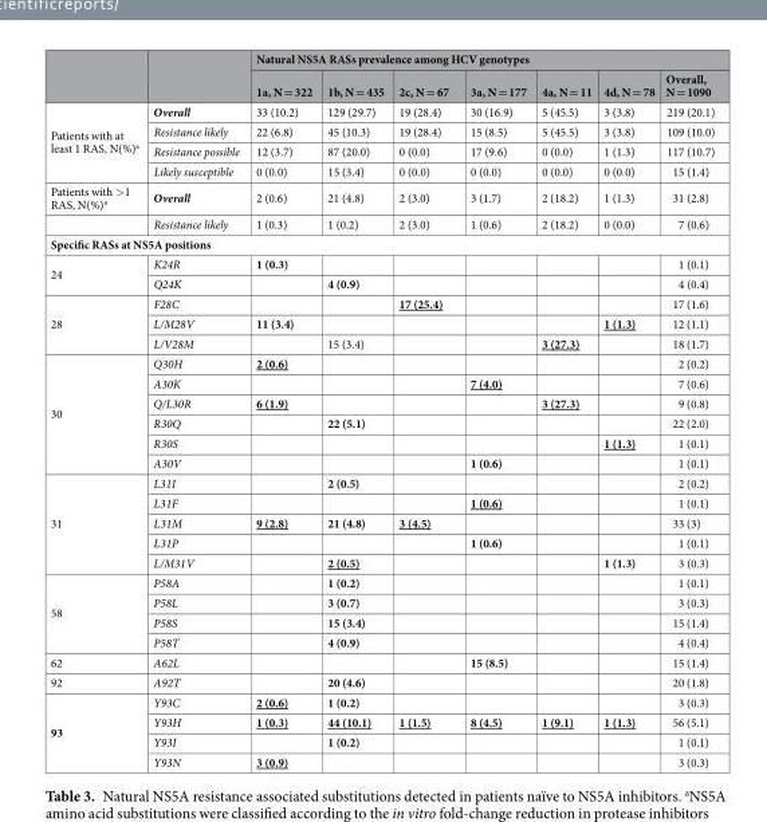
<table><thead><tr><td rowspan="2"></td><td rowspan="2"></td><td colspan="7">Natural NS5A RASs prevalence among HCV genotypes</td></tr><tr><td>1a, N = 322</td><td>1b, N = 435</td><td>2c, N = 67</td><td>3a, N = 177</td><td>4a, N = 11</td><td>4d, N = 78</td><td>Overall, N = 1090</td></tr></thead><tbody><tr><td rowspan="4">Patients with at least 1 RAS, N(%)<sup>a</sup></td><td>Overall</td><td>33 (10.2)</td><td>129 (29.7)</td><td>19 (28.4)</td><td>30 (16.9)</td><td>5 (45.5)</td><td>3 (3.8)</td><td>219 (20.1)</td></tr><tr><td>Resistance likely</td><td>22 (6.8)</td><td>45 (10.3)</td><td>19 (28.4)</td><td>15 (8.5)</td><td>5 (45.5)</td><td>3 (3.8)</td><td>109 (10.0)</td></tr><tr><td>Resistance possible</td><td>12 (3.7)</td><td>87 (20.0)</td><td>0 (0.0)</td><td>17 (9.6)</td><td>0 (0.0)</td><td>1 (1.3)</td><td>117 (10.7)</td></tr><tr><td>Likely susceptible</td><td>0 (0.0)</td><td>15 (3.4)</td><td>0 (0.0)</td><td>0 (0.0)</td><td>0 (0.0)</td><td>0 (0.0)</td><td>15 (1.4)</td></tr><tr><td rowspan="2">Patients with &gt;1 RAS, N(%)<sup>a</sup></td><td>Overall</td><td>2 (0.6)</td><td>21 (4.8)</td><td>2 (3.0)</td><td>3 (1.7)</td><td>2 (18.2)</td><td>1 (1.3)</td><td>31 (2.8)</td></tr><tr><td>Resistance likely</td><td>1 (0.3)</td><td>1 (0.2)</td><td>2 (3.0)</td><td>1 (0.6)</td><td>2 (18.2)</td><td>0 (0.0)</td><td>7 (0.6)</td></tr><tr><td colspan="9">Specific RASs at NS5A positions</td></tr><tr><td rowspan="2">24</td><td>K24R</td><td>1 (0.3)</td><td></td><td></td><td></td><td></td><td></td><td>1 (0.1)</td></tr><tr><td>Q24K</td><td></td><td>4 (0.9)</td><td></td><td></td><td></td><td></td><td>4 (0.4)</td></tr><tr><td rowspan="3">28</td><td>F28C</td><td></td><td></td><td>17 (25.4)</td><td></td><td></td><td></td><td>17 (1.6)</td></tr><tr><td>L/M28V</td><td>11 (3.4)</td><td></td><td></td><td></td><td></td><td>1 (1.3)</td><td>12 (1.1)</td></tr><tr><td>L/V28M</td><td></td><td>15 (3.4)</td><td></td><td></td><td>3 (27.3)</td><td></td><td>18 (1.7)</td></tr><tr><td rowspan="6">30</td><td>Q30H</td><td>2 (0.6)</td><td></td><td></td><td></td><td></td><td></td><td>2 (0.2)</td></tr><tr><td>A30K</td><td></td><td></td><td></td><td>7 (4.0)</td><td></td><td></td><td>7 (0.6)</td></tr><tr><td>Q/L30R</td><td>6 (1.9)</td><td></td><td></td><td></td><td>3 (27.3)</td><td></td><td>9 (0.8)</td></tr><tr><td>R30Q</td><td></td><td>22 (5.1)</td><td></td><td></td><td></td><td></td><td>22 (2.0)</td></tr><tr><td>R30S</td><td></td><td></td><td></td><td></td><td></td><td>1 (1.3)</td><td>1 (0.1)</td></tr><tr><td>A30V</td><td></td><td></td><td></td><td>1 (0.6)</td><td></td><td></td><td>1 (0.1)</td></tr><tr><td rowspan="5">31</td><td>L31I</td><td></td><td>2 (0.5)</td><td></td><td></td><td></td><td></td><td>2 (0.2)</td></tr><tr><td>L31F</td><td></td><td></td><td></td><td>1 (0.6)</td><td></td><td></td><td>1 (0.1)</td></tr><tr><td>L31M</td><td>9 (2.8)</td><td>21 (4.8)</td><td>3 (4.5)</td><td></td><td></td><td></td><td>33 (3)</td></tr><tr><td>L31P</td><td></td><td></td><td></td><td>1 (0.6)</td><td></td><td></td><td>1 (0.1)</td></tr><tr><td>L/M31V</td><td></td><td>2 (0.5)</td><td></td><td></td><td></td><td>1 (1.3)</td><td>3 (0.3)</td></tr><tr><td rowspan="4">58</td><td>P58A</td><td></td><td>1 (0.2)</td><td></td><td></td><td></td><td></td><td>1 (0.1)</td></tr><tr><td>P58L</td><td></td><td>3 (0.7)</td><td></td><td></td><td></td><td></td><td>3 (0.3)</td></tr><tr><td>P58S</td><td></td><td>15 (3.4)</td><td></td><td></td><td></td><td></td><td>15 (1.4)</td></tr><tr><td>P58T</td><td></td><td>4 (0.9)</td><td></td><td></td><td></td><td></td><td>4 (0.4)</td></tr><tr><td>62</td><td>A62L</td><td></td><td></td><td></td><td>15 (8.5)</td><td></td><td></td><td>15 (1.4)</td></tr><tr><td>92</td><td>A92T</td><td></td><td>20 (4.6)</td><td></td><td></td><td></td><td></td><td>20 (1.8)</td></tr><tr><td rowspan="4">93</td><td>Y93C</td><td>2 (0.6)</td><td>1 (0.2)</td><td></td><td></td><td></td><td></td><td>3 (0.3)</td></tr><tr><td>Y93H</td><td>1 (0.3)</td><td>44 (10.1)</td><td>1 (1.5)</td><td>8 (4.5)</td><td>1 (9.1)</td><td>1 (1.3)</td><td>56 (5.1)</td></tr><tr><td>Y93I</td><td></td><td>1 (0.2)</td><td></td><td></td><td></td><td></td><td>1 (0.1)</td></tr><tr><td>Y93N</td><td>3 (0.9)</td><td></td><td></td><td></td><td></td><td></td><td>3 (0.3)</td></tr></tbody></table>